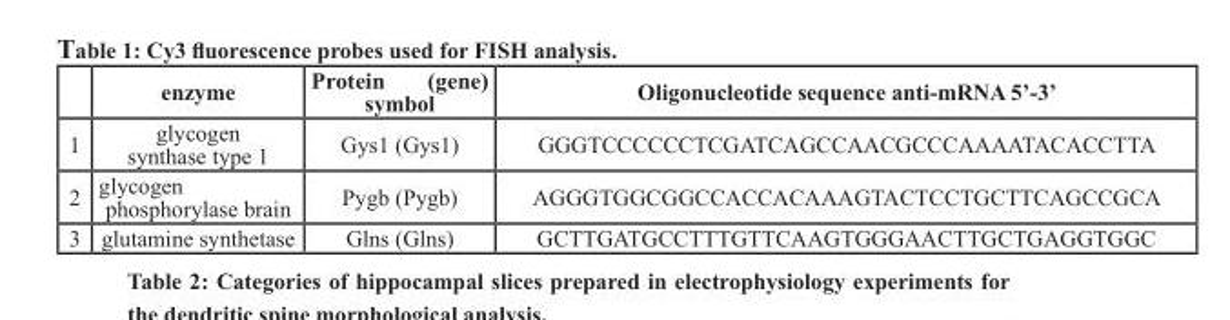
<table><thead><tr><td></td><td>enzyme</td><td>Protein (gene) symbol</td><td>Oligonucleotide sequence anti-mRNA 5’-3’</td></tr></thead><tbody><tr><td>1</td><td>glycogen synthase type 1</td><td>Gys1 (Gys1)</td><td>GGGTCCCCCCTCGATCAGCCAACGCCCAAAATACACCTTA</td></tr><tr><td>2</td><td>glycogen phosphorylase brain</td><td>Pygb (Pygb)</td><td>AGGGTGGCGGCCACCACAAAGTACTCCTGCTTCAGCCGCA</td></tr><tr><td>3</td><td>glutamine synthetase</td><td>Glns (Glns)</td><td>GCTTGATGCCTTTGTTCAAGTGGGAACTTGCTGAGGTGGC</td></tr></tbody></table>